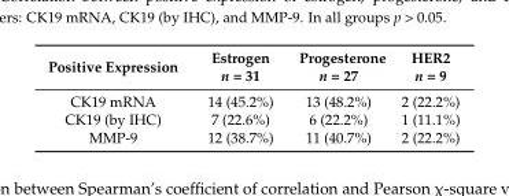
<table><thead><tr><td>Positive Expression</td><td>Estrogen n = 31</td><td>Progesterone n = 27</td><td>HER2 n = 9</td></tr></thead><tbody><tr><td>CK19 mRNA</td><td>14 (45.2%)</td><td>13 (48.2%)</td><td>2 (22.2%)</td></tr><tr><td>CK19 (by IHC)</td><td>7 (22.6%)</td><td>6 (22.2%)</td><td>1 (11.1%)</td></tr><tr><td>MMP-9</td><td>12 (38.7%)</td><td>11 (40.7%)</td><td>2 (22.2%)</td></tr></tbody></table>